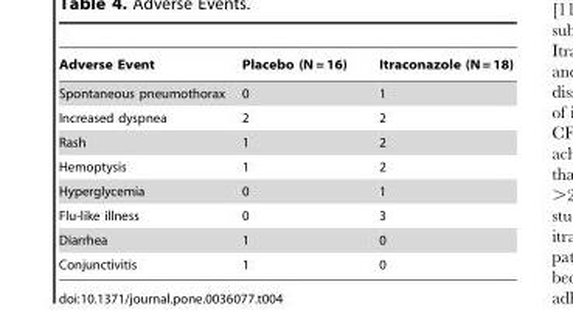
<table><thead><tr><td>Adverse Event</td><td>Placebo (N = 16)</td><td>Itraconazole (N = 18)</td></tr></thead><tbody><tr><td>Spontaneous pneumothorax</td><td>0</td><td>1</td></tr><tr><td>Increased dyspnea</td><td>2</td><td>2</td></tr><tr><td>Rash</td><td>1</td><td>2</td></tr><tr><td>Hemoptysis</td><td>1</td><td>2</td></tr><tr><td>Hyperglycemia</td><td>0</td><td>1</td></tr><tr><td>Flu-like illness</td><td>0</td><td>3</td></tr><tr><td>Diarrhea</td><td>1</td><td>0</td></tr><tr><td>Conjunctivitis</td><td>1</td><td>0</td></tr></tbody></table>